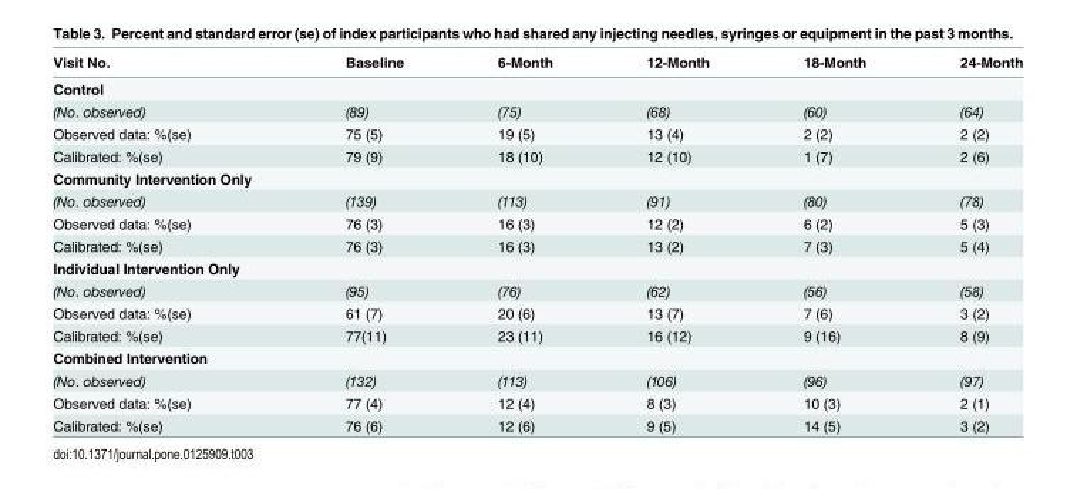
<table><thead><tr><td>Visit No.</td><td>Baseline</td><td>6-Month</td><td>12-Month</td><td>18-Month</td><td>24-Month</td></tr></thead><tbody><tr><td colspan="6">Control</td></tr><tr><td>(No. observed)</td><td>(89)</td><td>(75)</td><td>(68)</td><td>(60)</td><td>(64)</td></tr><tr><td>Observed data: %(se)</td><td>75 (5)</td><td>19 (5)</td><td>13 (4)</td><td>2 (2)</td><td>2 (2)</td></tr><tr><td>Calibrated: %(se)</td><td>79 (9)</td><td>18 (10)</td><td>12 (10)</td><td>1 (7)</td><td>2 (6)</td></tr><tr><td colspan="6">Community Intervention Only</td></tr><tr><td>(No. observed)</td><td>(139)</td><td>(113)</td><td>(91)</td><td>(80)</td><td>(78)</td></tr><tr><td>Observed data: %(se)</td><td>76 (3)</td><td>16 (3)</td><td>12 (2)</td><td>6 (2)</td><td>5 (3)</td></tr><tr><td>Calibrated: %(se)</td><td>76 (3)</td><td>16 (3)</td><td>13 (2)</td><td>7 (3)</td><td>5 (4)</td></tr><tr><td colspan="6">Individual Intervention Only</td></tr><tr><td>(No. observed)</td><td>(95)</td><td>(76)</td><td>(62)</td><td>(56)</td><td>(58)</td></tr><tr><td>Observed data: %(se)</td><td>61 (7)</td><td>20 (6)</td><td>13 (7)</td><td>7 (6)</td><td>3 (2)</td></tr><tr><td>Calibrated: %(se)</td><td>77(11)</td><td>23 (11)</td><td>16 (12)</td><td>9 (16)</td><td>8 (9)</td></tr><tr><td colspan="6">Combined Intervention</td></tr><tr><td>(No. observed)</td><td>(132)</td><td>(113)</td><td>(106)</td><td>(96)</td><td>(97)</td></tr><tr><td>Observed data: %(se)</td><td>77 (4)</td><td>12 (4)</td><td>8 (3)</td><td>10 (3)</td><td>2 (1)</td></tr><tr><td>Calibrated: %(se)</td><td>76 (6)</td><td>12 (6)</td><td>9 (5)</td><td>14 (5)</td><td>3 (2)</td></tr></tbody></table>